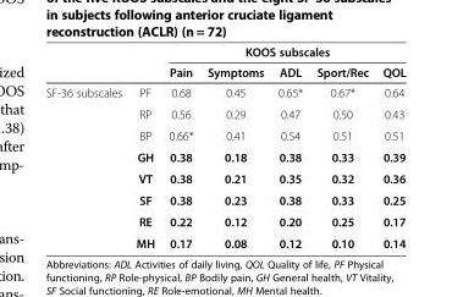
<table><thead><tr><td rowspan="2"></td><td rowspan="2"></td><td colspan="5">KOOS subscales</td></tr><tr><td>Pain</td><td>Symptoms</td><td>ADL</td><td>Sport/Rec</td><td>QOL</td></tr></thead><tbody><tr><td rowspan="8">SF-36 subscales</td><td>PF</td><td>0.68</td><td>0.45</td><td>0.65*</td><td>0.67*</td><td>0.64</td></tr><tr><td>RP</td><td>0.56</td><td>0.29</td><td>0.47</td><td>0.50</td><td>0.43</td></tr><tr><td>BP</td><td>0.66*</td><td>0.41</td><td>0.54</td><td>0.51</td><td>0.51</td></tr><tr><td>GH</td><td>0.38</td><td>0.18</td><td>0.38</td><td>0.33</td><td>0.39</td></tr><tr><td>VT</td><td>0.38</td><td>0.21</td><td>0.35</td><td>0.32</td><td>0.36</td></tr><tr><td>SF</td><td>0.38</td><td>0.23</td><td>0.38</td><td>0.33</td><td>0.25</td></tr><tr><td>RE</td><td>0.22</td><td>0.12</td><td>0.20</td><td>0.25</td><td>0.17</td></tr><tr><td>MH</td><td>0.17</td><td>0.08</td><td>0.12</td><td>0.10</td><td>0.14</td></tr></tbody></table>